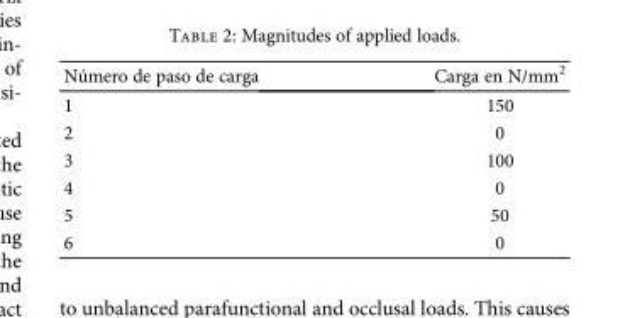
<table><thead><tr><td>Número de paso de carga</td><td>Carga en N/mm<sup>2</sup></td></tr></thead><tbody><tr><td>1</td><td>150</td></tr><tr><td>2</td><td>0</td></tr><tr><td>3</td><td>100</td></tr><tr><td>4</td><td>0</td></tr><tr><td>5</td><td>50</td></tr><tr><td>6</td><td>0</td></tr></tbody></table>